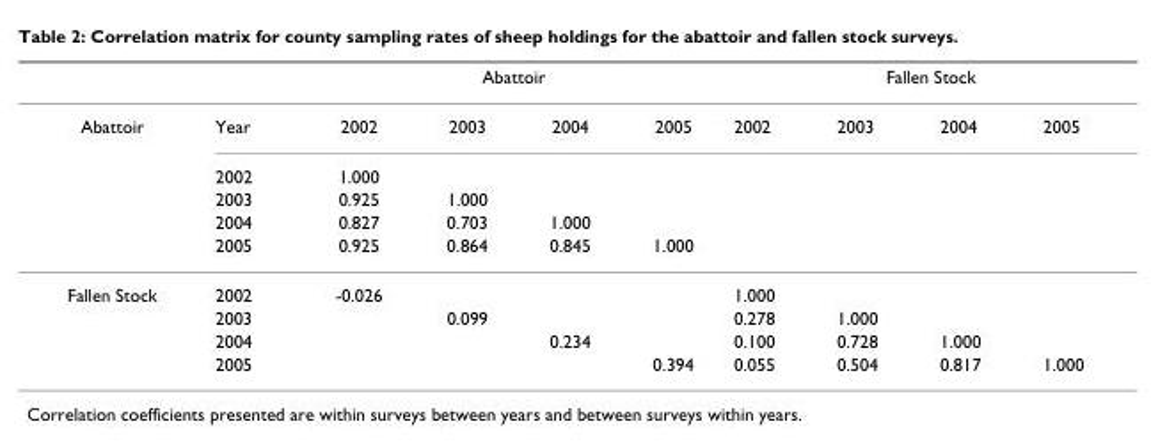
<table><thead><tr><td rowspan="2">Abattoir</td><td rowspan="2">Year</td><td colspan="4">Abattoir</td><td colspan="4">Fallen Stock</td></tr><tr><td>2002</td><td>2003</td><td>2004</td><td>2005</td><td>2002</td><td>2003</td><td>2004</td><td>2005</td></tr></thead><tbody><tr><td></td><td>2002</td><td>1.000</td><td></td><td></td><td></td><td></td><td></td><td></td><td></td></tr><tr><td></td><td>2003</td><td>0.925</td><td>1.000</td><td></td><td></td><td></td><td></td><td></td><td></td></tr><tr><td></td><td>2004</td><td>0.827</td><td>0.703</td><td>1.000</td><td></td><td></td><td></td><td></td><td></td></tr><tr><td></td><td>2005</td><td>0.925</td><td>0.864</td><td>0.845</td><td>1.000</td><td></td><td></td><td></td><td></td></tr><tr><td rowspan="4">Fallen Stock</td><td>2002</td><td>-0.026</td><td></td><td></td><td></td><td>1.000</td><td></td><td></td><td></td></tr><tr><td>2003</td><td></td><td>0.099</td><td></td><td></td><td>0.278</td><td>1.000</td><td></td><td></td></tr><tr><td>2004</td><td></td><td></td><td>0.234</td><td></td><td>0.100</td><td>0.728</td><td>1.000</td><td></td></tr><tr><td>2005</td><td></td><td></td><td></td><td>0.394</td><td>0.055</td><td>0.504</td><td>0.817</td><td>1.000</td></tr></tbody></table>